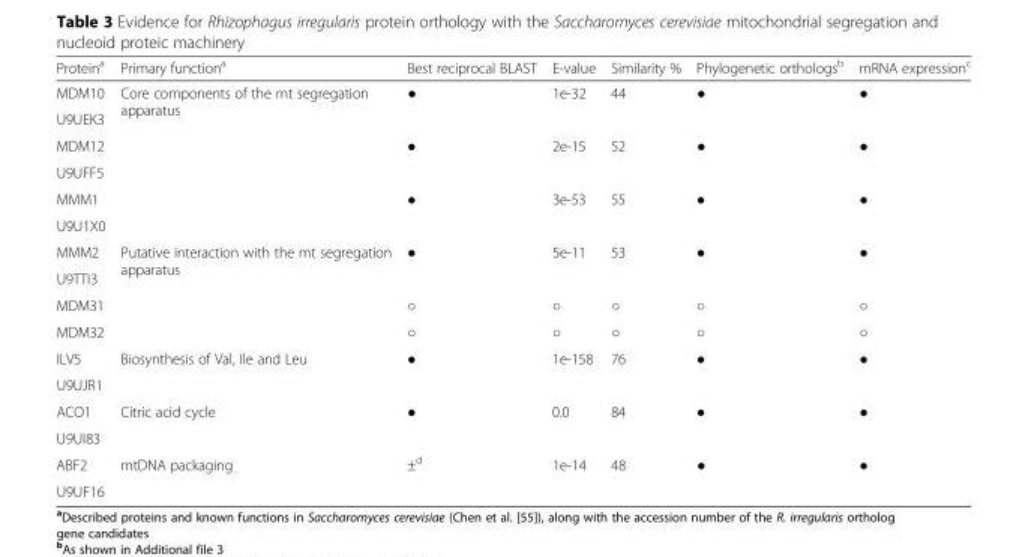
<table><thead><tr><td>Protein<sup>a</sup></td><td>Primary function<sup>a</sup></td><td>Best reciprocal BLAST</td><td>E-value</td><td>Similarity %</td><td>Phylogenetic orthologs<sup>b</sup></td><td>mRNA expression<sup>c</sup></td></tr></thead><tbody><tr><td>MDM10</td><td rowspan="6">Core components of the mt segregation apparatus</td><td rowspan="2">●</td><td rowspan="2">1e-32</td><td rowspan="2">44</td><td rowspan="2">●</td><td rowspan="2">●</td></tr><tr><td>U9UEK3</td></tr><tr><td>MDM12</td><td rowspan="2">●</td><td rowspan="2">2e-15</td><td rowspan="2">52</td><td rowspan="2">●</td><td rowspan="2">●</td></tr><tr><td>U9UFF5</td></tr><tr><td>MMM1</td><td rowspan="2">●</td><td rowspan="2">3e-53</td><td rowspan="2">55</td><td rowspan="2">●</td><td rowspan="2">●</td></tr><tr><td>U9U1X0</td></tr><tr><td>MMM2</td><td rowspan="4">Putative interaction with the mt segregation apparatus</td><td rowspan="2">●</td><td rowspan="2">5e-11</td><td rowspan="2">53</td><td rowspan="2">●</td><td rowspan="2">●</td></tr><tr><td>U9TTI3</td></tr><tr><td>MDM31</td><td>○</td><td>○</td><td>○</td><td>○</td><td>○</td></tr><tr><td>MDM32</td><td>○</td><td>○</td><td>○</td><td>○</td><td>○</td></tr><tr><td>ILV5</td><td rowspan="2">Biosynthesis of Val, Ile and Leu</td><td rowspan="2">●</td><td rowspan="2">1e-158</td><td rowspan="2">76</td><td rowspan="2">●</td><td rowspan="2">●</td></tr><tr><td>U9UJR1</td></tr><tr><td>ACO1</td><td rowspan="2">Citric acid cycle</td><td rowspan="2">●</td><td rowspan="2">0.0</td><td rowspan="2">84</td><td rowspan="2">●</td><td rowspan="2">●</td></tr><tr><td>U9UI83</td></tr><tr><td>ABF2</td><td rowspan="2">mtDNA packaging</td><td rowspan="2">±<sup>d</sup></td><td rowspan="2">1e-14</td><td rowspan="2">48</td><td rowspan="2">●</td><td rowspan="2">●</td></tr><tr><td>U9UF16</td></tr></tbody></table>